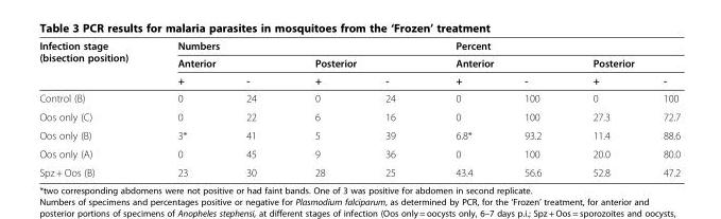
<table><thead><tr><td rowspan="3">Infection stage (bisection position)</td><td colspan="4">Numbers</td><td colspan="4">Percent</td></tr><tr><td colspan="2">Anterior</td><td colspan="2">Posterior</td><td colspan="2">Anterior</td><td colspan="2">Posterior</td></tr><tr><td>+</td><td>-</td><td>+</td><td>-</td><td>+</td><td>-</td><td>+</td><td>-</td></tr></thead><tbody><tr><td>Control (B)</td><td>0</td><td>24</td><td>0</td><td>24</td><td>0</td><td>100</td><td>0</td><td>100</td></tr><tr><td>Oos only (C)</td><td>0</td><td>22</td><td>6</td><td>16</td><td>0</td><td>100</td><td>27.3</td><td>72.7</td></tr><tr><td>Oos only (B)</td><td>3*</td><td>41</td><td>5</td><td>39</td><td>6.8*</td><td>93.2</td><td>11.4</td><td>88.6</td></tr><tr><td>Oos only (A)</td><td>0</td><td>45</td><td>9</td><td>36</td><td>0</td><td>100</td><td>20.0</td><td>80.0</td></tr><tr><td>Spz + Oos (B)</td><td>23</td><td>30</td><td>28</td><td>25</td><td>43.4</td><td>56.6</td><td>52.8</td><td>47.2</td></tr></tbody></table>